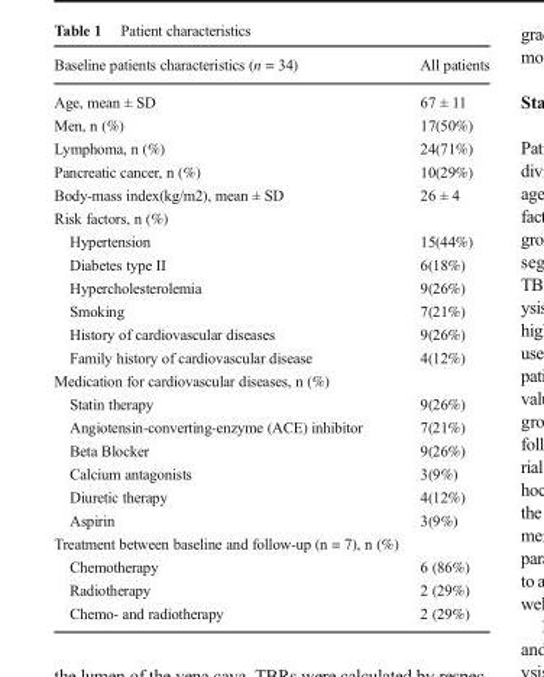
<table><thead><tr><td>Baseline patients characteristics (n = 34)</td><td>All patients</td></tr></thead><tbody><tr><td>Age, mean ± SD</td><td>67 ± 11</td></tr><tr><td>Men, n (%)</td><td>17(50%)</td></tr><tr><td>Lymphoma, n (%)</td><td>24(71%)</td></tr><tr><td>Pancreatic cancer, n (%)</td><td>10(29%)</td></tr><tr><td>Body-mass index(kg/m2), mean ± SD</td><td>26 ± 4</td></tr><tr><td colspan="2">Risk factors, n (%)</td></tr><tr><td>Hypertension</td><td>15(44%)</td></tr><tr><td>Diabetes type II</td><td>6(18%)</td></tr><tr><td>Hypercholesterolemia</td><td>9(26%)</td></tr><tr><td>Smoking</td><td>7(21%)</td></tr><tr><td>History of cardiovascular diseases</td><td>9(26%)</td></tr><tr><td>Family history of cardiovascular disease</td><td>4(12%)</td></tr><tr><td colspan="2">Medication for cardiovascular diseases, n (%)</td></tr><tr><td>Statin therapy</td><td>9(26%)</td></tr><tr><td>Angiotensin-converting-enzyme (ACE) inhibitor</td><td>7(21%)</td></tr><tr><td>Beta Blocker</td><td>9(26%)</td></tr><tr><td>Calcium antagonists</td><td>3(9%)</td></tr><tr><td>Diuretic therapy</td><td>4(12%)</td></tr><tr><td>Aspirin</td><td>3(9%)</td></tr><tr><td colspan="2">Treatment between baseline and follow-up (n = 7), n (%)</td></tr><tr><td>Chemotherapy</td><td>6 (86%)</td></tr><tr><td>Radiotherapy</td><td>2 (29%)</td></tr><tr><td>Chemo- and radiotherapy</td><td>2 (29%)</td></tr></tbody></table>